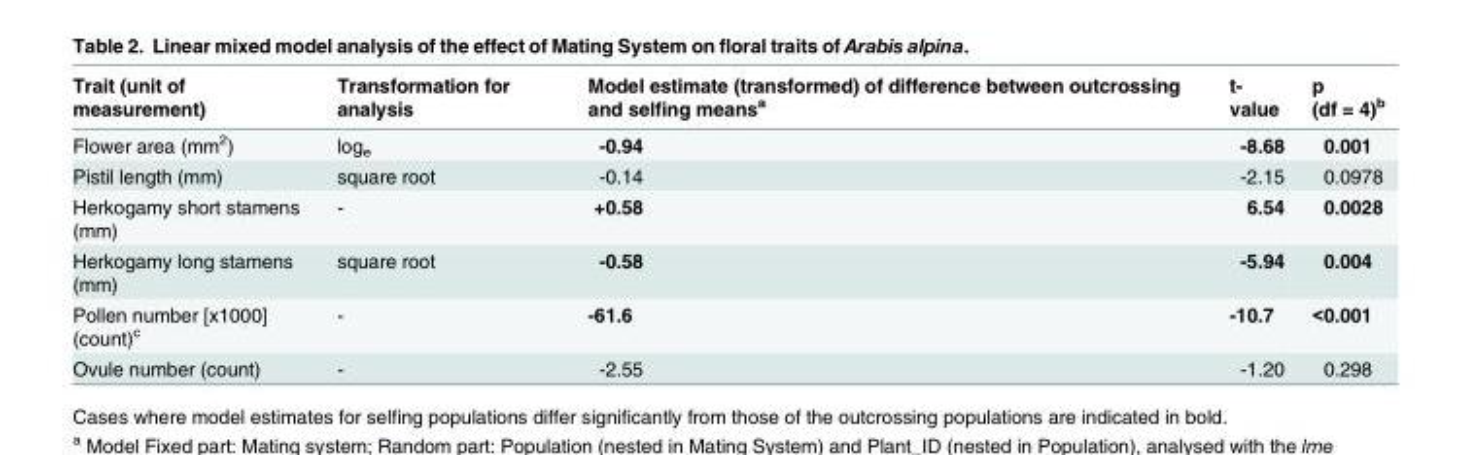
<table><thead><tr><td>Trait (unit of measurement)</td><td>Transformation for analysis</td><td>Model estimate (transformed) of difference between outcrossing and selfing means<sup>a</sup></td><td>t- value</td><td>p (df = 4)<sup>b</sup></td></tr></thead><tbody><tr><td>Flower area (mm<sup>2</sup>)</td><td>log<sub>e</sub></td><td>-0.94</td><td>-8.68</td><td>0.001</td></tr><tr><td>Pistil length (mm)</td><td>square root</td><td>-0.14</td><td>-2.15</td><td>0.0978</td></tr><tr><td>Herkogamy short stamens (mm)</td><td>-</td><td>+0.58</td><td>6.54</td><td>0.0028</td></tr><tr><td>Herkogamy long stamens (mm)</td><td>square root</td><td>-0.58</td><td>-5.94</td><td>0.004</td></tr><tr><td>Pollen number [x1000] (count)<sup>c</sup></td><td>-</td><td>-61.6</td><td>-10.7</td><td>&lt;0.001</td></tr><tr><td>Ovule number (count)</td><td>-</td><td>-2.55</td><td>-1.20</td><td>0.298</td></tr></tbody></table>